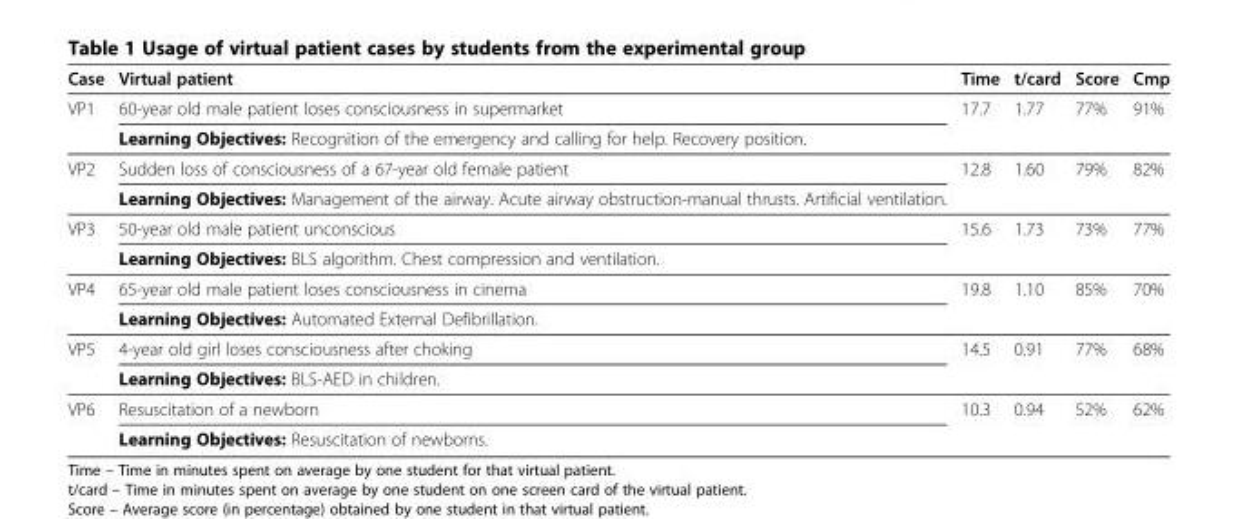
<table><thead><tr><td>Case</td><td>Virtual patient</td><td>Time</td><td>t/card</td><td>Score</td><td>Cmp</td></tr></thead><tbody><tr><td rowspan="2">VP1</td><td>60-year old male patient loses consciousness in supermarket</td><td rowspan="2">17.7</td><td rowspan="2">1.77</td><td rowspan="2">77%</td><td rowspan="2">91%</td></tr><tr><td>Learning Objectives: Recognition of the emergency and calling for help. Recovery position.</td></tr><tr><td rowspan="2">VP2</td><td>Sudden loss of consciousness of a 67-year old female patient</td><td rowspan="2">12.8</td><td rowspan="2">1.60</td><td rowspan="2">79%</td><td rowspan="2">82%</td></tr><tr><td>Learning Objectives: Management of the airway. Acute airway obstruction-manual thrusts. Artificial ventilation.</td></tr><tr><td rowspan="2">VP3</td><td>50-year old male patient unconscious</td><td rowspan="2">15.6</td><td rowspan="2">1.73</td><td rowspan="2">73%</td><td rowspan="2">77%</td></tr><tr><td>Learning Objectives: BLS algorithm. Chest compression and ventilation.</td></tr><tr><td rowspan="2">VP4</td><td>65-year old male patient loses consciousness in cinema</td><td rowspan="2">19.8</td><td rowspan="2">1.10</td><td rowspan="2">85%</td><td rowspan="2">70%</td></tr><tr><td>Learning Objectives: Automated External Defibrillation.</td></tr><tr><td rowspan="2">VP5</td><td>4-year old girl loses consciousness after choking</td><td rowspan="2">14.5</td><td rowspan="2">0.91</td><td rowspan="2">77%</td><td rowspan="2">68%</td></tr><tr><td>Learning Objectives: BLS-AED in children.</td></tr><tr><td rowspan="2">VP6</td><td>Resuscitation of a newborn</td><td rowspan="2">10.3</td><td rowspan="2">0.94</td><td rowspan="2">52%</td><td rowspan="2">62%</td></tr><tr><td>Learning Objectives: Resuscitation of newborns.</td></tr></tbody></table>